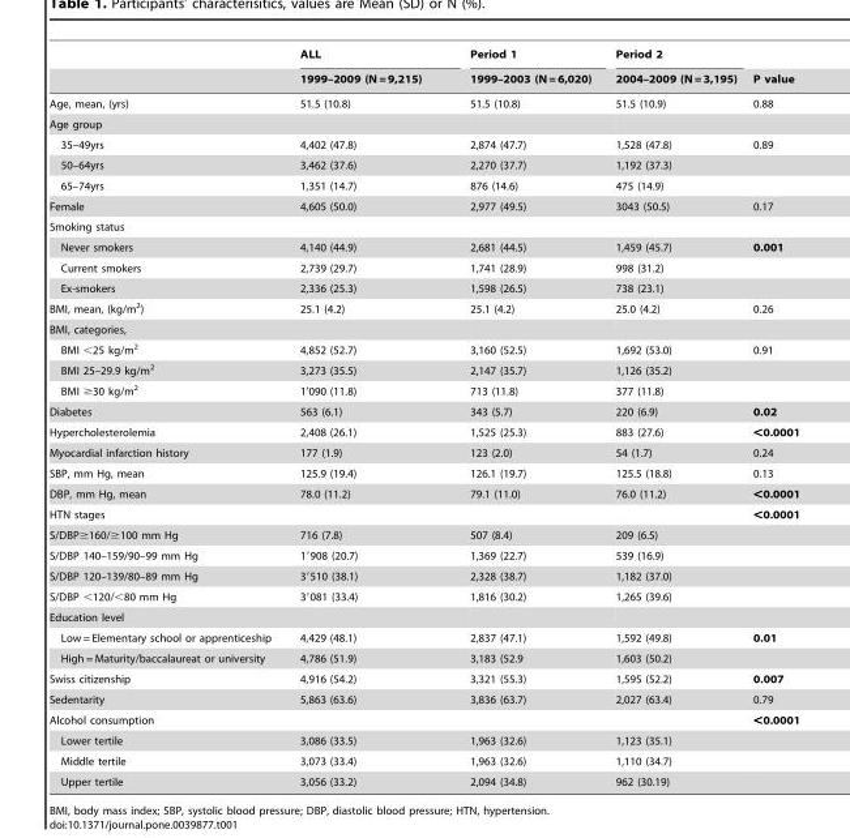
<table><thead><tr><td rowspan="2"></td><td rowspan="2">ALL 1999–2009 (N = 9,215)</td><td rowspan="2">Period 1 1999–2003 (N = 6,020)</td><td rowspan="2">Period 2 2004–2009 (N = 3,195)</td><td rowspan="2">P value</td></tr><tr></tr></thead><tbody><tr><td>Age, mean, (yrs)</td><td>51.5 (10.8)</td><td>51.5 (10.8)</td><td>51.5 (10.9)</td><td>0.88</td></tr><tr><td colspan="5">Age group</td></tr><tr><td>35–49yrs</td><td>4,402 (47.8)</td><td>2,874 (47.7)</td><td>1,528 (47.8)</td><td>0.89</td></tr><tr><td>50–64yrs</td><td>3,462 (37.6)</td><td>2,270 (37.7)</td><td>1,192 (37.3)</td><td></td></tr><tr><td>65–74yrs</td><td>1,351 (14.7)</td><td>876 (14.6)</td><td>475 (14.9)</td><td></td></tr><tr><td>Female</td><td>4,605 (50.0)</td><td>2,977 (49.5)</td><td>3043 (50.5)</td><td>0.17</td></tr><tr><td colspan="5">Smoking status</td></tr><tr><td>Never smokers</td><td>4,140 (44.9)</td><td>2,681 (44.5)</td><td>1,459 (45.7)</td><td>0.001</td></tr><tr><td>Current smokers</td><td>2,739 (29.7)</td><td>1,741 (28.9)</td><td>998 (31.2)</td><td></td></tr><tr><td>Ex-smokers</td><td>2,336 (25.3)</td><td>1,598 (26.5)</td><td>738 (23.1)</td><td></td></tr><tr><td>BMI, mean, (kg/m<sup>2</sup>)</td><td>25.1 (4.2)</td><td>25.1 (4.2)</td><td>25.0 (4.2)</td><td>0.26</td></tr><tr><td colspan="5">BMI, categories,</td></tr><tr><td>BMI &lt;25 kg/m<sup>2</sup></td><td>4,852 (52.7)</td><td>3,160 (52.5)</td><td>1,692 (53.0)</td><td>0.91</td></tr><tr><td>BMI 25–29.9 kg/m<sup>2</sup></td><td>3,273 (35.5)</td><td>2,147 (35.7)</td><td>1,126 (35.2)</td><td></td></tr><tr><td>BMI ≥30 kg/m<sup>2</sup></td><td>1’090 (11.8)</td><td>713 (11.8)</td><td>377 (11.8)</td><td></td></tr><tr><td>Diabetes</td><td>563 (6.1)</td><td>343 (5.7)</td><td>220 (6.9)</td><td>0.02</td></tr><tr><td>Hypercholesterolemia</td><td>2,408 (26.1)</td><td>1,525 (25.3)</td><td>883 (27.6)</td><td>&lt;0.0001</td></tr><tr><td>Myocardial infarction history</td><td>177 (1.9)</td><td>123 (2.0)</td><td>54 (1.7)</td><td>0.24</td></tr><tr><td>SBP, mm Hg, mean</td><td>125.9 (19.4)</td><td>126.1 (19.7)</td><td>125.5 (18.8)</td><td>0.13</td></tr><tr><td>DBP, mm Hg, mean</td><td>78.0 (11.2)</td><td>79.1 (11.0)</td><td>76.0 (11.2)</td><td>&lt;0.0001</td></tr><tr><td>HTN stages</td><td></td><td></td><td></td><td>&lt;0.0001</td></tr><tr><td>S/DBP≥160/≥100 mm Hg</td><td>716 (7.8)</td><td>507 (8.4)</td><td>209 (6.5)</td><td></td></tr><tr><td>S/DBP 140–159/90–99 mm Hg</td><td>1′908 (20.7)</td><td>1,369 (22.7)</td><td>539 (16.9)</td><td></td></tr><tr><td>S/DBP 120–139/80–89 mm Hg</td><td>3′510 (38.1)</td><td>2,328 (38.7)</td><td>1,182 (37.0)</td><td></td></tr><tr><td>S/DBP &lt;120/&lt;80 mm Hg</td><td>3′081 (33.4)</td><td>1,816 (30.2)</td><td>1,265 (39.6)</td><td></td></tr><tr><td colspan="5">Education level</td></tr><tr><td>Low = Elementary school or apprenticeship</td><td>4,429 (48.1)</td><td>2,837 (47.1)</td><td>1,592 (49.8)</td><td>0.01</td></tr><tr><td>High = Maturity/baccalaureat or university</td><td>4,786 (51.9)</td><td>3,183 (52.9</td><td>1,603 (50.2)</td><td></td></tr><tr><td>Swiss citizenship</td><td>4,916 (54.2)</td><td>3,321 (55.3)</td><td>1,595 (52.2)</td><td>0.007</td></tr><tr><td>Sedentarity</td><td>5,863 (63.6)</td><td>3,836 (63.7)</td><td>2,027 (63.4)</td><td>0.79</td></tr><tr><td>Alcohol consumption</td><td></td><td></td><td></td><td>&lt;0.0001</td></tr><tr><td>Lower tertile</td><td>3,086 (33.5)</td><td>1,963 (32.6)</td><td>1,123 (35.1)</td><td></td></tr><tr><td>Middle tertile</td><td>3,073 (33.4)</td><td>1,963 (32.6)</td><td>1,110 (34.7)</td><td></td></tr><tr><td>Upper tertile</td><td>3,056 (33.2)</td><td>2,094 (34.8)</td><td>962 (30.19)</td><td></td></tr></tbody></table>